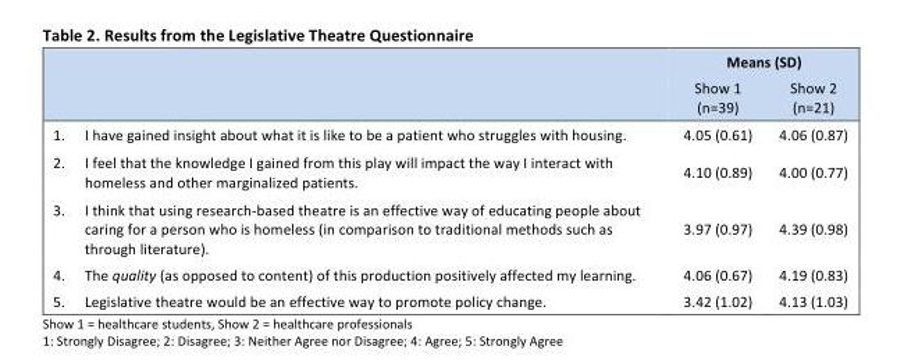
<table><thead><tr><td rowspan="2"></td><td rowspan="2"></td><td colspan="2">Means (SD)</td></tr><tr><td>Show 1 (n=39)</td><td>Show 2 (n=21)</td></tr></thead><tbody><tr><td>1.</td><td>I have gained insight about what it is like to be a patient who struggles with housing.</td><td>4.05 (0.61)</td><td>4.06 (0.87)</td></tr><tr><td>2.</td><td>I feel that the knowledge I gained from this play will impact the way I interact with homeless and other marginalized patients.</td><td>4.10 (0.89)</td><td>4.00 (0.77)</td></tr><tr><td>3.</td><td>I think that using research-based theatre is an effective way of educating people about caring for a person who is homeless (in comparison to traditional methods such as through literature).</td><td>3.97 (0.97)</td><td>4.39 (0.98)</td></tr><tr><td>4.</td><td>The quality (as opposed to content) of this production positively affected my learning.</td><td>4.06 (0.67)</td><td>4.19 (0.83)</td></tr><tr><td>5.</td><td>Legislative theatre would be an effective way to promote policy change.</td><td>3.42 (1.02)</td><td>4.13 (1.03)</td></tr></tbody></table>